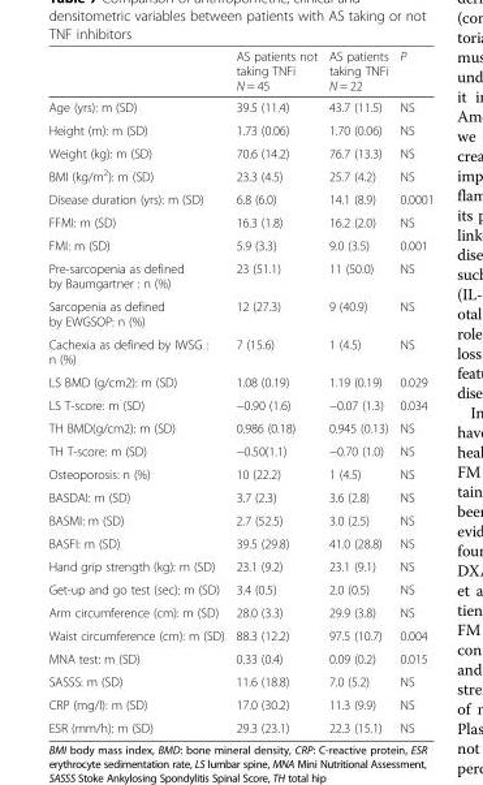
<table><thead><tr><td></td><td>AS patients not taking TNFi N = 45</td><td>AS patients taking TNFi N = 22</td><td>P</td></tr></thead><tbody><tr><td>Age (yrs): m (SD)</td><td>39.5 (11.4)</td><td>43.7 (11.5)</td><td>NS</td></tr><tr><td>Height (m): m (SD)</td><td>1.73 (0.06)</td><td>1.70 (0.06)</td><td>NS</td></tr><tr><td>Weight (kg): m (SD)</td><td>70.6 (14.2)</td><td>76.7 (13.3)</td><td>NS</td></tr><tr><td>BMI (kg/m<sup>2</sup>): m (SD)</td><td>23.3 (4.5)</td><td>25.7 (4.2)</td><td>NS</td></tr><tr><td>Disease duration (yrs): m (SD)</td><td>6.8 (6.0)</td><td>14.1 (8.9)</td><td>0.0001</td></tr><tr><td>FFMI: m (SD)</td><td>16.3 (1.8)</td><td>16.2 (2.0)</td><td>NS</td></tr><tr><td>FMI: m (SD)</td><td>5.9 (3.3)</td><td>9.0 (3.5)</td><td>0.001</td></tr><tr><td>Pre-sarcopenia as defined by Baumgartner : n (%)</td><td>23 (51.1)</td><td>11 (50.0)</td><td>NS</td></tr><tr><td>Sarcopenia as defined by EWGSOP: n (%)</td><td>12 (27.3)</td><td>9 (40.9)</td><td>NS</td></tr><tr><td>Cachexia as defined by IWSG : n (%)</td><td>7 (15.6)</td><td>1 (4.5)</td><td>NS</td></tr><tr><td>LS BMD (g/cm2): m (SD)</td><td>1.08 (0.19)</td><td>1.19 (0.19)</td><td>0.029</td></tr><tr><td>LS T-score: m (SD)</td><td>−0.90 (1.6)</td><td>−0.07 (1.3)</td><td>0.034</td></tr><tr><td>TH BMD(g/cm2): m (SD)</td><td>0.986 (0.18)</td><td>0.945 (0.13)</td><td>NS</td></tr><tr><td>TH T-score: m (SD)</td><td>−0.50(1.1)</td><td>−0.70 (1.0)</td><td>NS</td></tr><tr><td>Osteoporosis: n (%)</td><td>10 (22.2)</td><td>1 (4.5)</td><td>NS</td></tr><tr><td>BASDAI: m (SD)</td><td>3.7 (2.3)</td><td>3.6 (2.8)</td><td>NS</td></tr><tr><td>BASMI: m (SD)</td><td>2.7 (52.5)</td><td>3.0 (2.5)</td><td>NS</td></tr><tr><td>BASFI: m (SD)</td><td>39.5 (29.8)</td><td>41.0 (28.8)</td><td>NS</td></tr><tr><td>Hand grip strength (kg): m (SD)</td><td>23.1 (9.2)</td><td>23.1 (9.1)</td><td>NS</td></tr><tr><td>Get-up and go test (sec): m (SD)</td><td>3.4 (0.5)</td><td>2.0 (0.5)</td><td>NS</td></tr><tr><td>Arm circumference (cm): m (SD)</td><td>28.0 (3.3)</td><td>29.9 (3.8)</td><td>NS</td></tr><tr><td>Waist circumference (cm): m (SD)</td><td>88.3 (12.2)</td><td>97.5 (10.7)</td><td>0.004</td></tr><tr><td>MNA test: m (SD)</td><td>0.33 (0.4)</td><td>0.09 (0.2)</td><td>0.015</td></tr><tr><td>SASSS: m (SD)</td><td>11.6 (18.8)</td><td>7.0 (5.2)</td><td>NS</td></tr><tr><td>CRP (mg/l): m (SD)</td><td>17.0 (30.2)</td><td>11.3 (9.9)</td><td>NS</td></tr><tr><td>ESR (mm/h): m (SD)</td><td>29.3 (23.1)</td><td>22.3 (15.1)</td><td>NS</td></tr></tbody></table>